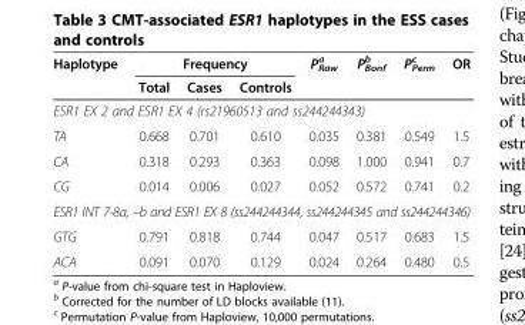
<table><thead><tr><td rowspan="2">Haplotype</td><td colspan="3">Frequency</td><td rowspan="2">P<sub>Raw</sub> <sup>a</sup></td><td rowspan="2">P<sub>Bonf</sub> <sup>b</sup></td><td rowspan="2">P<sub>Perm</sub> <sup>c</sup></td><td rowspan="2">OR</td></tr><tr><td>Total</td><td>Cases</td><td>Controls</td></tr></thead><tbody><tr><td colspan="8">ESR1 EX 2 and ESR1 EX 4 (rs21960513 and ss244244343)</td></tr><tr><td>TA</td><td>0.668</td><td>0.701</td><td>0.610</td><td>0.035</td><td>0.381</td><td>0.549</td><td>1.5</td></tr><tr><td>CA</td><td>0.318</td><td>0.293</td><td>0.363</td><td>0.098</td><td>1.000</td><td>0.941</td><td>0.7</td></tr><tr><td>CG</td><td>0.014</td><td>0.006</td><td>0.027</td><td>0.052</td><td>0.572</td><td>0.741</td><td>0.2</td></tr><tr><td colspan="8">ESR1 INT 7-8a, –b and ESR1 EX 8 (ss244244344, ss244244345 and ss244244346)</td></tr><tr><td>GTG</td><td>0.791</td><td>0.818</td><td>0.744</td><td>0.047</td><td>0.517</td><td>0.683</td><td>1.5</td></tr><tr><td>ACA</td><td>0.091</td><td>0.070</td><td>0.129</td><td>0.024</td><td>0.264</td><td>0.480</td><td>0.5</td></tr></tbody></table>